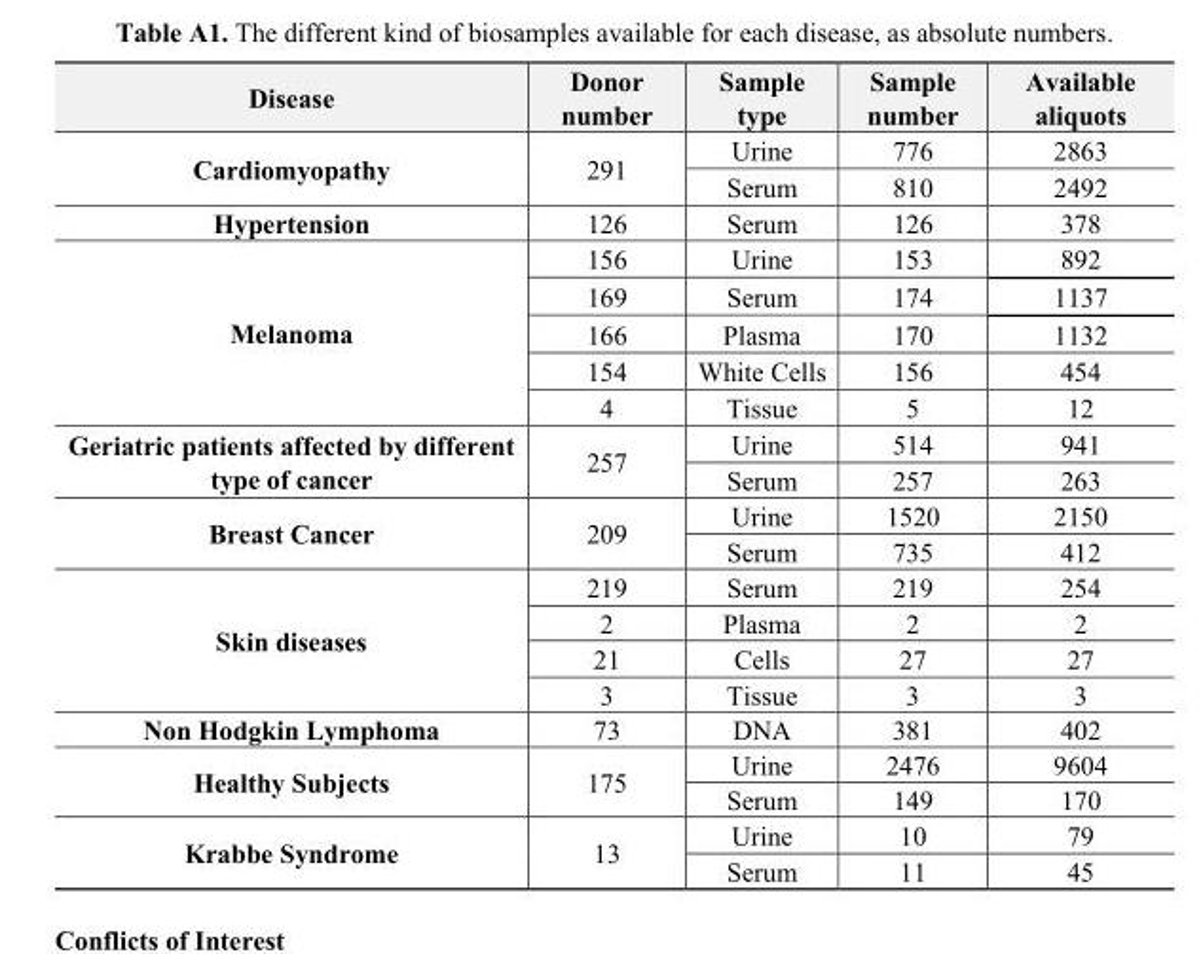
<table><thead><tr><td>Disease</td><td>Donor number</td><td>Sample type</td><td>Sample number</td><td>Available aliquots</td></tr></thead><tbody><tr><td rowspan="2">Cardiomyopathy</td><td rowspan="2">291</td><td>Urine</td><td>776</td><td>2863</td></tr><tr><td>Serum</td><td>810</td><td>2492</td></tr><tr><td>Hypertension</td><td>126</td><td>Serum</td><td>126</td><td>378</td></tr><tr><td rowspan="5">Melanoma</td><td>156</td><td>Urine</td><td>153</td><td>892</td></tr><tr><td>169</td><td>Serum</td><td>174</td><td>1137</td></tr><tr><td>166</td><td>Plasma</td><td>170</td><td>1132</td></tr><tr><td>154</td><td>White Cells</td><td>156</td><td>454</td></tr><tr><td>4</td><td>Tissue</td><td>5</td><td>12</td></tr><tr><td rowspan="2">Geriatric patients affected by different type of cancer</td><td rowspan="2">257</td><td>Urine</td><td>514</td><td>941</td></tr><tr><td>Serum</td><td>257</td><td>263</td></tr><tr><td rowspan="2">Breast Cancer</td><td rowspan="2">209</td><td>Urine</td><td>1520</td><td>2150</td></tr><tr><td>Serum</td><td>735</td><td>412</td></tr><tr><td rowspan="4">Skin diseases</td><td>219</td><td>Serum</td><td>219</td><td>254</td></tr><tr><td>2</td><td>Plasma</td><td>2</td><td>2</td></tr><tr><td>21</td><td>Cells</td><td>27</td><td>27</td></tr><tr><td>3</td><td>Tissue</td><td>3</td><td>3</td></tr><tr><td>Non Hodgkin Lymphoma</td><td>73</td><td>DNA</td><td>381</td><td>402</td></tr><tr><td rowspan="2">Healthy Subjects</td><td rowspan="2">175</td><td>Urine</td><td>2476</td><td>9604</td></tr><tr><td>Serum</td><td>149</td><td>170</td></tr><tr><td rowspan="2">Krabbe Syndrome</td><td rowspan="2">13</td><td>Urine</td><td>10</td><td>79</td></tr><tr><td>Serum</td><td>11</td><td>45</td></tr></tbody></table>